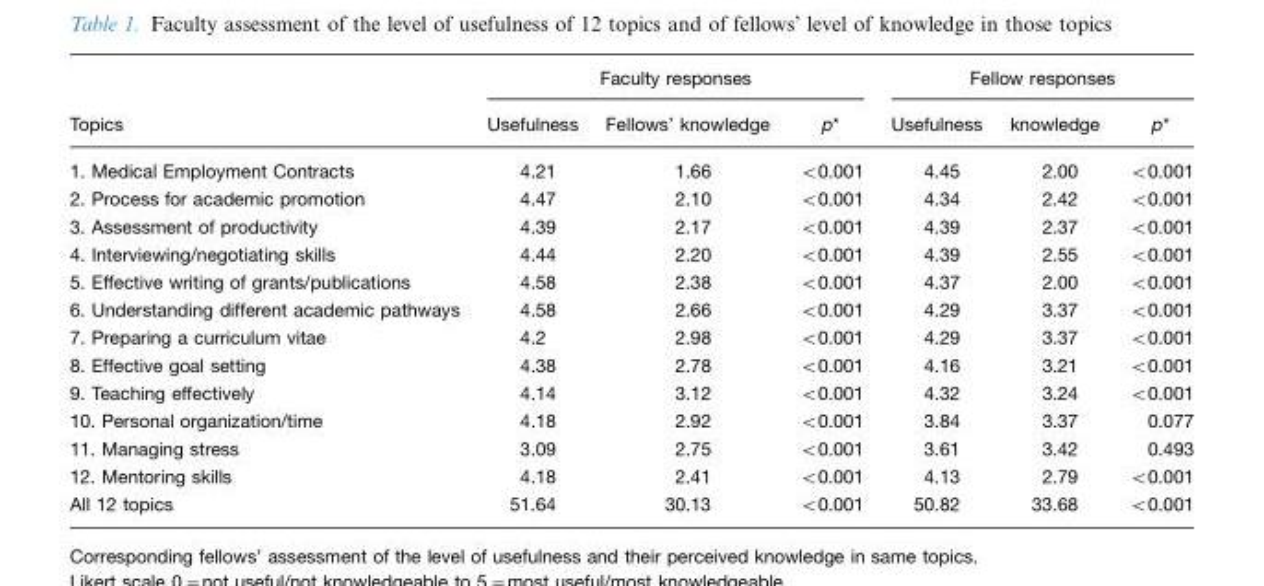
<table><thead><tr><td rowspan="2">Topics</td><td colspan="3">Faculty responses</td><td colspan="3">Fellow responses</td></tr><tr><td>Usefulness</td><td>Fellows’ knowledge</td><td>p*</td><td>Usefulness</td><td>knowledge</td><td>p*</td></tr></thead><tbody><tr><td>1. Medical Employment Contracts</td><td>4.21</td><td>1.66</td><td>&lt;0.001</td><td>4.45</td><td>2.00</td><td>&lt;0.001</td></tr><tr><td>2. Process for academic promotion</td><td>4.47</td><td>2.10</td><td>&lt;0.001</td><td>4.34</td><td>2.42</td><td>&lt;0.001</td></tr><tr><td>3. Assessment of productivity</td><td>4.39</td><td>2.17</td><td>&lt;0.001</td><td>4.39</td><td>2.37</td><td>&lt;0.001</td></tr><tr><td>4. Interviewing/negotiating skills</td><td>4.44</td><td>2.20</td><td>&lt;0.001</td><td>4.39</td><td>2.55</td><td>&lt;0.001</td></tr><tr><td>5. Effective writing of grants/publications</td><td>4.58</td><td>2.38</td><td>&lt;0.001</td><td>4.37</td><td>2.00</td><td>&lt;0.001</td></tr><tr><td>6. Understanding different academic pathways</td><td>4.58</td><td>2.66</td><td>&lt;0.001</td><td>4.29</td><td>3.37</td><td>&lt;0.001</td></tr><tr><td>7. Preparing a curriculum vitae</td><td>4.2</td><td>2.98</td><td>&lt;0.001</td><td>4.29</td><td>3.37</td><td>&lt;0.001</td></tr><tr><td>8. Effective goal setting</td><td>4.38</td><td>2.78</td><td>&lt;0.001</td><td>4.16</td><td>3.21</td><td>&lt;0.001</td></tr><tr><td>9. Teaching effectively</td><td>4.14</td><td>3.12</td><td>&lt;0.001</td><td>4.32</td><td>3.24</td><td>&lt;0.001</td></tr><tr><td>10. Personal organization/time</td><td>4.18</td><td>2.92</td><td>&lt;0.001</td><td>3.84</td><td>3.37</td><td>0.077</td></tr><tr><td>11. Managing stress</td><td>3.09</td><td>2.75</td><td>&lt;0.001</td><td>3.61</td><td>3.42</td><td>0.493</td></tr><tr><td>12. Mentoring skills</td><td>4.18</td><td>2.41</td><td>&lt;0.001</td><td>4.13</td><td>2.79</td><td>&lt;0.001</td></tr><tr><td>All 12 topics</td><td>51.64</td><td>30.13</td><td>&lt;0.001</td><td>50.82</td><td>33.68</td><td>&lt;0.001</td></tr></tbody></table>